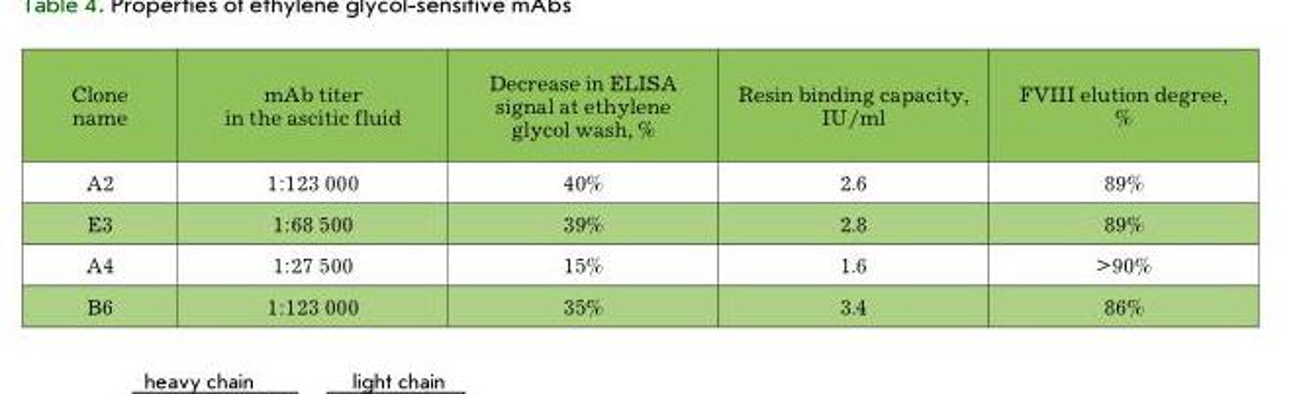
<table><thead><tr><td>clone name</td><td>mAb titer in the ascitic fluid</td><td>Decrease in eLISA signal at ethylene glycol wash, %</td><td>resin binding capacity, Iu/ml</td><td>FVIII elution degree, %</td></tr></thead><tbody><tr><td>A2</td><td>1:123 000</td><td>40%</td><td>2.6</td><td>89%</td></tr><tr><td>e3</td><td>1:68 500</td><td>39%</td><td>2.8</td><td>89%</td></tr><tr><td>A4</td><td>1:27 500</td><td>15%</td><td>1.6</td><td>&gt;90%</td></tr><tr><td>B6</td><td>1:123 000</td><td>35%</td><td>3.4</td><td>86%</td></tr></tbody></table>